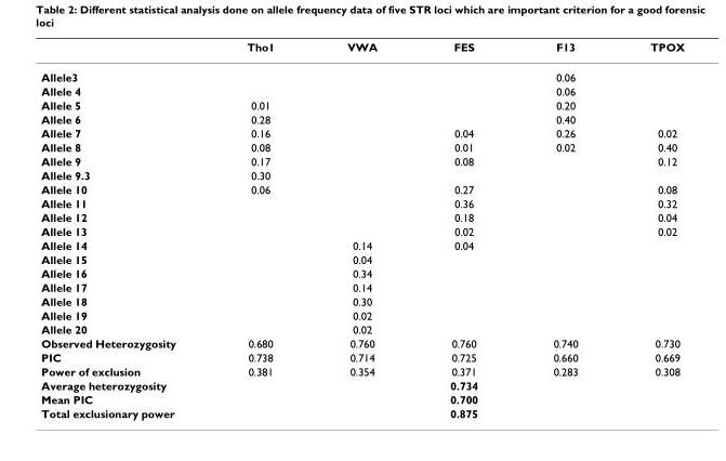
<table><thead><tr><td></td><td>Tho1</td><td>VWA</td><td>FES</td><td>F13</td><td>TPOX</td></tr></thead><tbody><tr><td>Allele3</td><td></td><td></td><td></td><td>0.06</td><td></td></tr><tr><td>Allele 4</td><td></td><td></td><td></td><td>0.06</td><td></td></tr><tr><td>Allele 5</td><td>0.01</td><td></td><td></td><td>0.20</td><td></td></tr><tr><td>Allele 6</td><td>0.28</td><td></td><td></td><td>0.40</td><td></td></tr><tr><td>Allele 7</td><td>0.16</td><td></td><td>0.04</td><td>0.26</td><td>0.02</td></tr><tr><td>Allele 8</td><td>0.08</td><td></td><td>0.01</td><td>0.02</td><td>0.40</td></tr><tr><td>Allele 9</td><td>0.17</td><td></td><td>0.08</td><td></td><td>0.12</td></tr><tr><td>Allele 9.3</td><td>0.30</td><td></td><td></td><td></td><td></td></tr><tr><td>Allele 10</td><td>0.06</td><td></td><td>0.27</td><td></td><td>0.08</td></tr><tr><td>Allele 11</td><td></td><td></td><td>0.36</td><td></td><td>0.32</td></tr><tr><td>Allele 12</td><td></td><td></td><td>0.18</td><td></td><td>0.04</td></tr><tr><td>Allele 13</td><td></td><td></td><td>0.02</td><td></td><td>0.02</td></tr><tr><td>Allele 14</td><td></td><td>0.14</td><td>0.04</td><td></td><td></td></tr><tr><td>Allele 15</td><td></td><td>0.04</td><td></td><td></td><td></td></tr><tr><td>Allele 16</td><td></td><td>0.34</td><td></td><td></td><td></td></tr><tr><td>Allele 17</td><td></td><td>0.14</td><td></td><td></td><td></td></tr><tr><td>Allele 18</td><td></td><td>0.30</td><td></td><td></td><td></td></tr><tr><td>Allele 19</td><td></td><td>0.02</td><td></td><td></td><td></td></tr><tr><td>Allele 20</td><td></td><td>0.02</td><td></td><td></td><td></td></tr><tr><td>Observed Heterozygosity</td><td>0.680</td><td>0.760</td><td>0.760</td><td>0.740</td><td>0.730</td></tr><tr><td>PIC</td><td>0.738</td><td>0.714</td><td>0.725</td><td>0.660</td><td>0.669</td></tr><tr><td>Power of exclusion</td><td>0.381</td><td>0.354</td><td>0.371</td><td>0.283</td><td>0.308</td></tr><tr><td>Average heterozygosity</td><td colspan="5">0.734</td></tr><tr><td>Mean PIC</td><td colspan="5">0.700</td></tr><tr><td>Total exclusionary power</td><td colspan="5">0.875</td></tr></tbody></table>